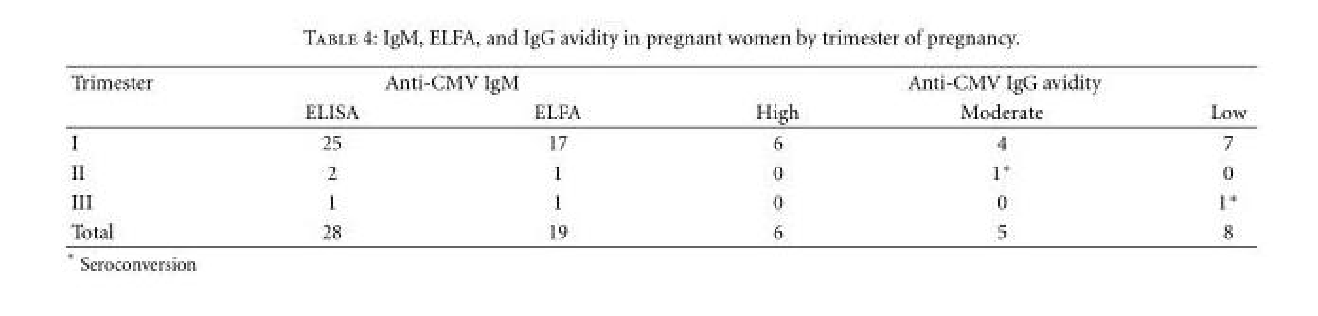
<table><thead><tr><td rowspan="2">Trimester</td><td colspan="2">Anti-CMV IgM</td><td colspan="3">Anti-CMV IgG avidity</td></tr><tr><td>ELISA</td><td>ELFA</td><td>High</td><td>Moderate</td><td>Low</td></tr></thead><tbody><tr><td>I</td><td>25</td><td>17</td><td>6</td><td>4</td><td>7</td></tr><tr><td>II</td><td>2</td><td>1</td><td>0</td><td>1∗</td><td>0</td></tr><tr><td>III</td><td>1</td><td>1</td><td>0</td><td>0</td><td>1∗</td></tr><tr><td>Total</td><td>28</td><td>19</td><td>6</td><td>5</td><td>8</td></tr></tbody></table>